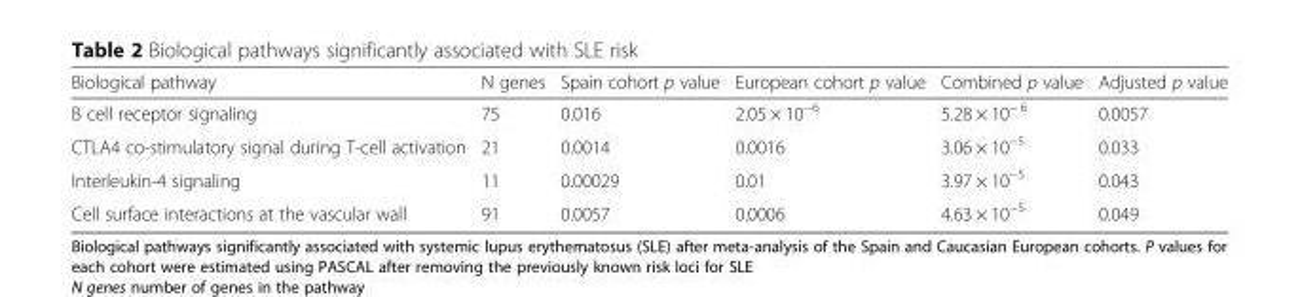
<table><thead><tr><td>Biological pathway</td><td>N genes</td><td>Spain cohort p value</td><td>European cohort p value</td><td>Combined p value</td><td>Adjusted p value</td></tr></thead><tbody><tr><td>B cell receptor signaling</td><td>75</td><td>0.016</td><td>2.05 × 10<sup>−6</sup></td><td>5.28 × 10<sup>− 6</sup></td><td>0.0057</td></tr><tr><td>CTLA4 co-stimulatory signal during T-cell activation</td><td>21</td><td>0.0014</td><td>0.0016</td><td>3.06 × 10<sup>−5</sup></td><td>0.033</td></tr><tr><td>Interleukin-4 signaling</td><td>11</td><td>0.00029</td><td>0.01</td><td>3.97 × 10<sup>−5</sup></td><td>0.043</td></tr><tr><td>Cell surface interactions at the vascular wall</td><td>91</td><td>0.0057</td><td>0.0006</td><td>4.63 × 10<sup>−5</sup></td><td>0.049</td></tr></tbody></table>